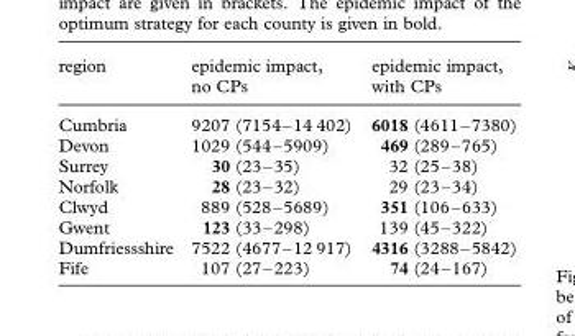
<table><thead><tr><td>region</td><td>epidemic impact, no CPs</td><td>epidemic impact, with CPs</td></tr></thead><tbody><tr><td>Cumbria</td><td>9207 (7154–14 402)</td><td>6018 (4611–7380)</td></tr><tr><td>Devon</td><td>1029 (544–5909)</td><td>469 (289–765)</td></tr><tr><td>Surrey</td><td>30 (23–35)</td><td>32 (25–38)</td></tr><tr><td>Norfolk</td><td>28 (23–32)</td><td>29 (23–34)</td></tr><tr><td>Clwyd</td><td>889 (528–5689)</td><td>351 (106–633)</td></tr><tr><td>Gwent</td><td>123 (33–298)</td><td>139 (45–322)</td></tr><tr><td>Dumfriessshire</td><td>7522 (4677–12 917)</td><td>4316 (3288–5842)</td></tr><tr><td>Fife</td><td>107 (27–223)</td><td>74 (24–167)</td></tr></tbody></table>